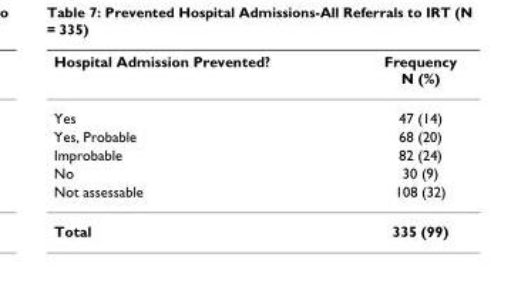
<table><thead><tr><td>Hospital Admission Prevented?</td><td>Frequency N (%)</td></tr></thead><tbody><tr><td>Yes</td><td>47 (14)</td></tr><tr><td>Yes, Probable</td><td>68 (20)</td></tr><tr><td>Improbable</td><td>82 (24)</td></tr><tr><td>No</td><td>30 (9)</td></tr><tr><td>Not assessable</td><td>108 (32)</td></tr><tr><td>Total</td><td>335 (99)</td></tr></tbody></table>